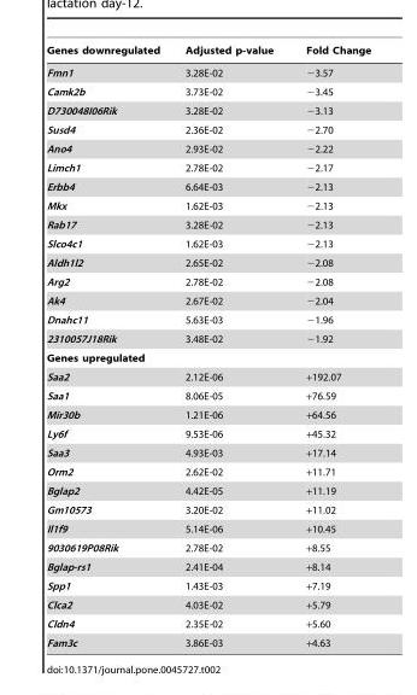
<table><thead><tr><td>Genes downregulated</td><td>Adjusted p-value</td><td>Fold Change</td></tr></thead><tbody><tr><td>Fmn1</td><td>3.28E-02</td><td>−3.57</td></tr><tr><td>Camk2b</td><td>3.73E-02</td><td>−3.45</td></tr><tr><td>D730048I06Rik</td><td>3.28E-02</td><td>−3.13</td></tr><tr><td>Susd4</td><td>2.36E-02</td><td>−2.70</td></tr><tr><td>Ano4</td><td>2.93E-02</td><td>−2.22</td></tr><tr><td>Limch1</td><td>2.78E-02</td><td>−2.17</td></tr><tr><td>Erbb4</td><td>6.64E-03</td><td>−2.13</td></tr><tr><td>Mkx</td><td>1.62E-03</td><td>−2.13</td></tr><tr><td>Rab17</td><td>3.28E-02</td><td>−2.13</td></tr><tr><td>Slco4c1</td><td>1.62E-03</td><td>−2.13</td></tr><tr><td>Aldh1l2</td><td>2.65E-02</td><td>−2.08</td></tr><tr><td>Arg2</td><td>2.78E-02</td><td>−2.08</td></tr><tr><td>Ak4</td><td>2.67E-02</td><td>−2.04</td></tr><tr><td>Dnahc11</td><td>5.63E-03</td><td>−1.96</td></tr><tr><td>2310057J18Rik</td><td>3.48E-02</td><td>−1.92</td></tr><tr><td colspan="3">Genes upregulated</td></tr><tr><td>Saa2</td><td>2.12E-06</td><td>+192.07</td></tr><tr><td>Saa1</td><td>8.06E-05</td><td>+76.59</td></tr><tr><td>Mir30b</td><td>1.21E-06</td><td>+64.56</td></tr><tr><td>Ly6f</td><td>9.53E-06</td><td>+45.32</td></tr><tr><td>Saa3</td><td>4.93E-03</td><td>+17.14</td></tr><tr><td>Orm2</td><td>2.62E-02</td><td>+11.71</td></tr><tr><td>Bglap2</td><td>4.42E-05</td><td>+11.19</td></tr><tr><td>Gm10573</td><td>3.20E-02</td><td>+11.02</td></tr><tr><td>Il1f9</td><td>5.14E-06</td><td>+10.45</td></tr><tr><td>9030619P08Rik</td><td>2.78E-02</td><td>+8.55</td></tr><tr><td>Bglap-rs1</td><td>2.41E-04</td><td>+8.14</td></tr><tr><td>Spp1</td><td>1.43E-03</td><td>+7.19</td></tr><tr><td>Clca2</td><td>4.03E-02</td><td>+5.79</td></tr><tr><td>Cldn4</td><td>2.35E-02</td><td>+5.60</td></tr><tr><td>Fam3c</td><td>3.86E-03</td><td>+4.63</td></tr></tbody></table>